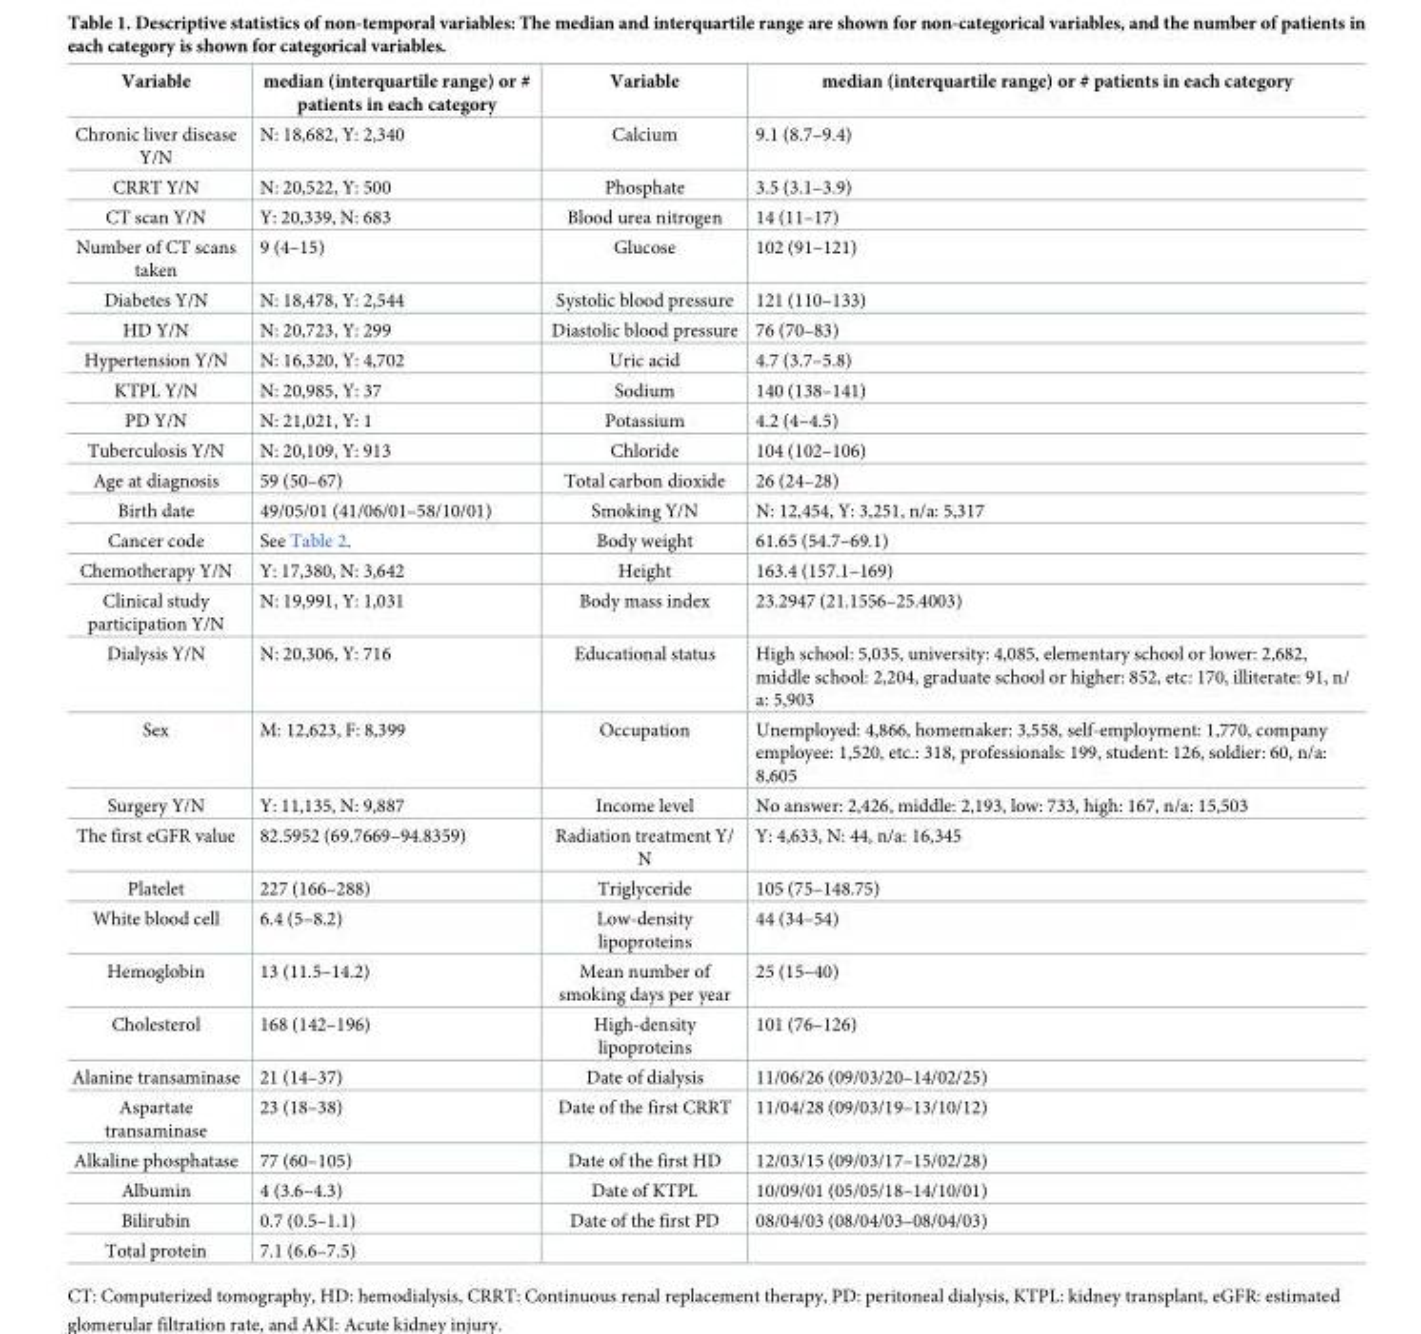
<table><thead><tr><td>Variable</td><td>median (interquartile range) or # patients in each category</td><td>Variable</td><td>median (interquartile range) or # patients in each category</td></tr></thead><tbody><tr><td>Chronic liver disease Y/N</td><td>N: 18,682, Y: 2,340</td><td>Calcium</td><td>9.1 (8.7–9.4)</td></tr><tr><td>CRRT Y/N</td><td>N: 20,522, Y: 500</td><td>Phosphate</td><td>3.5 (3.1–3.9)</td></tr><tr><td>CT scan Y/N</td><td>Y: 20,339, N: 683</td><td>Blood urea nitrogen</td><td>14 (11–17)</td></tr><tr><td>Number of CT scans taken</td><td>9 (4–15)</td><td>Glucose</td><td>102 (91–121)</td></tr><tr><td>Diabetes Y/N</td><td>N: 18,478, Y: 2,544</td><td>Systolic blood pressure</td><td>121 (110–133)</td></tr><tr><td>HD Y/N</td><td>N: 20,723, Y: 299</td><td>Diastolic blood pressure</td><td>76 (70–83)</td></tr><tr><td>Hypertension Y/N</td><td>N: 16,320, Y: 4,702</td><td>Uric acid</td><td>4.7 (3.7–5.8)</td></tr><tr><td>KTPL Y/N</td><td>N: 20,985, Y: 37</td><td>Sodium</td><td>140 (138–141)</td></tr><tr><td>PD Y/N</td><td>N: 21,021, Y: 1</td><td>Potassium</td><td>4.2 (4–4.5)</td></tr><tr><td>Tuberculosis Y/N</td><td>N: 20,109, Y: 913</td><td>Chloride</td><td>104 (102–106)</td></tr><tr><td>Age at diagnosis</td><td>59 (50–67)</td><td>Total carbon dioxide</td><td>26 (24–28)</td></tr><tr><td>Birth date</td><td>49/05/01 (41/06/01–58/10/01)</td><td>Smoking Y/N</td><td>N: 12,454, Y: 3,251, n/a: 5,317</td></tr><tr><td>Cancer code</td><td>See Table 2.</td><td>Body weight</td><td>61.65 (54.7–69.1)</td></tr><tr><td>Chemotherapy Y/N</td><td>Y: 17,380, N: 3,642</td><td>Height</td><td>163.4 (157.1–169)</td></tr><tr><td>Clinical study participation Y/N</td><td>N: 19,991, Y: 1,031</td><td>Body mass index</td><td>23.2947 (21.1556–25.4003)</td></tr><tr><td>Dialysis Y/N</td><td>N: 20,306, Y: 716</td><td>Educational status</td><td>High school: 5,035, university: 4,085, elementary school or lower: 2,682, middle school: 2,204, graduate school or higher: 852, etc: 170, illiterate: 91, n/ a: 5,903</td></tr><tr><td>Sex</td><td>M: 12,623, F: 8,399</td><td>Occupation</td><td>Unemployed: 4,866, homemaker: 3,558, self-employment: 1,770, company employee: 1,520, etc.: 318, professionals: 199, student: 126, soldier: 60, n/a: 8,605</td></tr><tr><td>Surgery Y/N</td><td>Y: 11,135, N: 9,887</td><td>Income level</td><td>No answer: 2,426, middle: 2,193, low: 733, high: 167, n/a: 15,503</td></tr><tr><td>The first eGFR value</td><td>82.5952 (69.7669–94.8359)</td><td>Radiation treatment Y/ N</td><td>Y: 4,633, N: 44, n/a: 16,345</td></tr><tr><td>Platelet</td><td>227 (166–288)</td><td>Triglyceride</td><td>105 (75–148.75)</td></tr><tr><td>White blood cell</td><td>6.4 (5–8.2)</td><td>Low-density lipoproteins</td><td>44 (34–54)</td></tr><tr><td>Hemoglobin</td><td>13 (11.5–14.2)</td><td>Mean number of smoking days per year</td><td>25 (15–40)</td></tr><tr><td>Cholesterol</td><td>168 (142–196)</td><td>High-density lipoproteins</td><td>101 (76–126)</td></tr><tr><td>Alanine transaminase</td><td>21 (14–37)</td><td>Date of dialysis</td><td>11/06/26 (09/03/20–14/02/25)</td></tr><tr><td>Aspartate transaminase</td><td>23 (18–38)</td><td>Date of the first CRRT</td><td>11/04/28 (09/03/19–13/10/12)</td></tr><tr><td>Alkaline phosphatase</td><td>77 (60–105)</td><td>Date of the first HD</td><td>12/03/15 (09/03/17–15/02/28)</td></tr><tr><td>Albumin</td><td>4 (3.6–4.3)</td><td>Date of KTPL</td><td>10/09/01 (05/05/18–14/10/01)</td></tr><tr><td>Bilirubin</td><td>0.7 (0.5–1.1)</td><td>Date of the first PD</td><td>08/04/03 (08/04/03–08/04/03)</td></tr><tr><td>Total protein</td><td>7.1 (6.6–7.5)</td><td></td><td></td></tr></tbody></table>